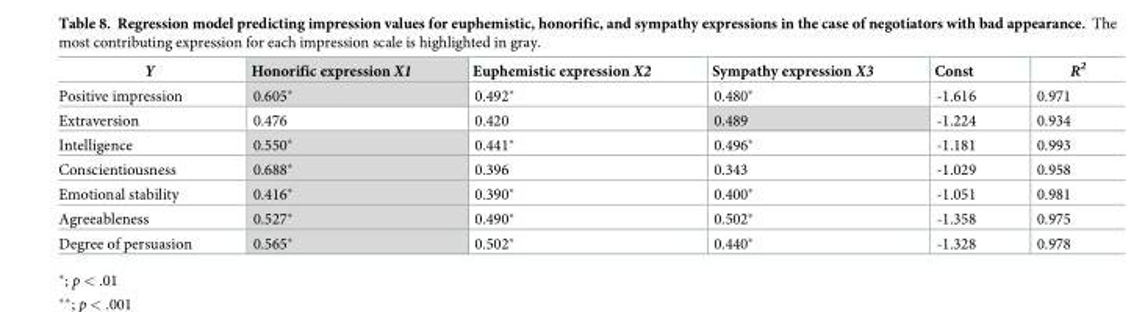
<table><thead><tr><td>Y</td><td>Honorific expression X1</td><td>Euphemistic expression X2</td><td>Sympathy expression X3</td><td>Const</td><td>R<sup>2</sup></td></tr></thead><tbody><tr><td>Positive impression</td><td>0.605*</td><td>0.492*</td><td>0.480*</td><td>-1.616</td><td>0.971</td></tr><tr><td>Extraversion</td><td>0.476</td><td>0.420</td><td>0.489</td><td>-1.224</td><td>0.934</td></tr><tr><td>Intelligence</td><td>0.550*</td><td>0.441*</td><td>0.496*</td><td>-1.181</td><td>0.993</td></tr><tr><td>Conscientiousness</td><td>0.688*</td><td>0.396</td><td>0.343</td><td>-1.029</td><td>0.958</td></tr><tr><td>Emotional stability</td><td>0.416*</td><td>0.390*</td><td>0.400*</td><td>-1.051</td><td>0.981</td></tr><tr><td>Agreeableness</td><td>0.527*</td><td>0.490*</td><td>0.502*</td><td>-1.358</td><td>0.975</td></tr><tr><td>Degree of persuasion</td><td>0.565*</td><td>0.502*</td><td>0.440*</td><td>-1.328</td><td>0.978</td></tr></tbody></table>